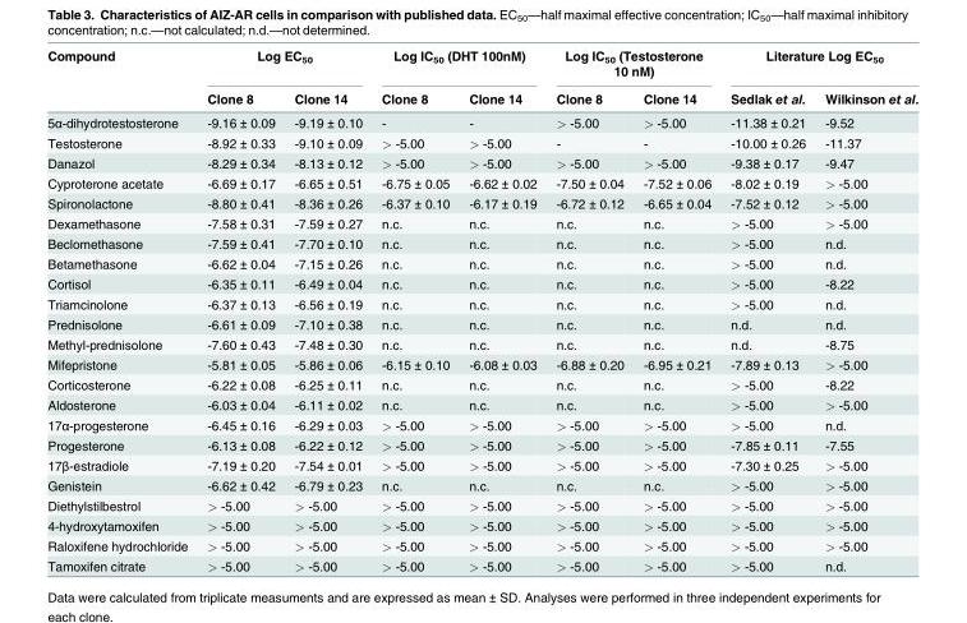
<table><thead><tr><td rowspan="2">Compound</td><td colspan="2">Log EC<sub>50</sub></td><td colspan="2">Log IC<sub>50</sub> (DHT 100nM)</td><td colspan="2">Log IC<sub>50</sub> (Testosterone 10 nM)</td><td colspan="2">Literature Log EC<sub>50</sub></td></tr><tr><td>Clone 8</td><td>Clone 14</td><td>Clone 8</td><td>Clone 14</td><td>Clone 8</td><td>Clone 14</td><td>Sedlak et al.</td><td>Wilkinson et al.</td></tr></thead><tbody><tr><td>5α-dihydrotestosterone</td><td>-9.16 ± 0.09</td><td>-9.19 ± 0.10</td><td>-</td><td>-</td><td>&gt; -5.00</td><td>&gt; -5.00</td><td>-11.38 ± 0.21</td><td>-9.52</td></tr><tr><td>Testosterone</td><td>-8.92 ± 0.33</td><td>-9.10 ± 0.09</td><td>&gt; -5.00</td><td>&gt; -5.00</td><td>-</td><td>-</td><td>-10.00 ± 0.26</td><td>-11.37</td></tr><tr><td>Danazol</td><td>-8.29 ± 0.34</td><td>-8.13 ± 0.12</td><td>&gt; -5.00</td><td>&gt; -5.00</td><td>&gt; -5.00</td><td>&gt; -5.00</td><td>-9.38 ± 0.17</td><td>-9.47</td></tr><tr><td>Cyproterone acetate</td><td>-6.69 ± 0.17</td><td>-6.65 ± 0.51</td><td>-6.75 ± 0.05</td><td>-6.62 ± 0.02</td><td>-7.50 ± 0.04</td><td>-7.52 ± 0.06</td><td>-8.02 ± 0.19</td><td>&gt; -5.00</td></tr><tr><td>Spironolactone</td><td>-8.80 ± 0.41</td><td>-8.36 ± 0.26</td><td>-6.37 ± 0.10</td><td>-6.17 ± 0.19</td><td>-6.72 ± 0.12</td><td>-6.65 ± 0.04</td><td>-7.52 ± 0.12</td><td>&gt; -5.00</td></tr><tr><td>Dexamethasone</td><td>-7.58 ± 0.31</td><td>-7.59 ± 0.27</td><td>n.c.</td><td>n.c.</td><td>n.c.</td><td>n.c.</td><td>&gt; -5.00</td><td>&gt; -5.00</td></tr><tr><td>Beclomethasone</td><td>-7.59 ± 0.41</td><td>-7.70 ± 0.10</td><td>n.c.</td><td>n.c.</td><td>n.c.</td><td>n.c.</td><td>&gt; -5.00</td><td>n.d.</td></tr><tr><td>Betamethasone</td><td>-6.62 ± 0.04</td><td>-7.15 ± 0.26</td><td>n.c.</td><td>n.c.</td><td>n.c.</td><td>n.c.</td><td>&gt; -5.00</td><td>n.d.</td></tr><tr><td>Cortisol</td><td>-6.35 ± 0.11</td><td>-6.49 ± 0.04</td><td>n.c.</td><td>n.c.</td><td>n.c.</td><td>n.c.</td><td>&gt; -5.00</td><td>-8.22</td></tr><tr><td>Triamcinolone</td><td>-6.37 ± 0.13</td><td>-6.56 ± 0.19</td><td>n.c.</td><td>n.c.</td><td>n.c.</td><td>n.c.</td><td>&gt; -5.00</td><td>n.d.</td></tr><tr><td>Prednisolone</td><td>-6.61 ± 0.09</td><td>-7.10 ± 0.38</td><td>n.c.</td><td>n.c.</td><td>n.c.</td><td>n.c.</td><td>n.d.</td><td>n.d.</td></tr><tr><td>Methyl-prednisolone</td><td>-7.60 ± 0.43</td><td>-7.48 ± 0.30</td><td>n.c.</td><td>n.c.</td><td>n.c.</td><td>n.c.</td><td>n.d.</td><td>-8.75</td></tr><tr><td>Mifepristone</td><td>-5.81 ± 0.05</td><td>-5.86 ± 0.06</td><td>-6.15 ± 0.10</td><td>-6.08 ± 0.03</td><td>-6.88 ± 0.20</td><td>-6.95 ± 0.21</td><td>-7.89 ± 0.13</td><td>&gt; -5.00</td></tr><tr><td>Corticosterone</td><td>-6.22 ± 0.08</td><td>-6.25 ± 0.11</td><td>n.c.</td><td>n.c.</td><td>n.c.</td><td>n.c.</td><td>&gt; -5.00</td><td>-8.22</td></tr><tr><td>Aldosterone</td><td>-6.03 ± 0.04</td><td>-6.11 ± 0.02</td><td>n.c.</td><td>n.c.</td><td>n.c.</td><td>n.c.</td><td>&gt; -5.00</td><td>&gt; -5.00</td></tr><tr><td>17α-progesterone</td><td>-6.45 ± 0.16</td><td>-6.29 ± 0.03</td><td>&gt; -5.00</td><td>&gt; -5.00</td><td>&gt; -5.00</td><td>&gt; -5.00</td><td>&gt; -5.00</td><td>n.d.</td></tr><tr><td>Progesterone</td><td>-6.13 ± 0.08</td><td>-6.22 ± 0.12</td><td>&gt; -5.00</td><td>&gt; -5.00</td><td>&gt; -5.00</td><td>&gt; -5.00</td><td>-7.85 ± 0.11</td><td>-7.55</td></tr><tr><td>17β-estradiole</td><td>-7.19 ± 0.20</td><td>-7.54 ± 0.01</td><td>&gt; -5.00</td><td>&gt; -5.00</td><td>&gt; -5.00</td><td>&gt; -5.00</td><td>-7.30 ± 0.25</td><td>&gt; -5.00</td></tr><tr><td>Genistein</td><td>-6.62 ± 0.42</td><td>-6.79 ± 0.23</td><td>n.c.</td><td>n.c.</td><td>n.c.</td><td>n.c.</td><td>&gt; -5.00</td><td>&gt; -5.00</td></tr><tr><td>Diethylstilbestrol</td><td>&gt; -5.00</td><td>&gt; -5.00</td><td>&gt; -5.00</td><td>&gt; -5.00</td><td>&gt; -5.00</td><td>&gt; -5.00</td><td>&gt; -5.00</td><td>&gt; -5.00</td></tr><tr><td>4-hydroxytamoxifen</td><td>&gt; -5.00</td><td>&gt; -5.00</td><td>&gt; -5.00</td><td>&gt; -5.00</td><td>&gt; -5.00</td><td>&gt; -5.00</td><td>&gt; -5.00</td><td>&gt; -5.00</td></tr><tr><td>Raloxifene hydrochloride</td><td>&gt; -5.00</td><td>&gt; -5.00</td><td>&gt; -5.00</td><td>&gt; -5.00</td><td>&gt; -5.00</td><td>&gt; -5.00</td><td>&gt; -5.00</td><td>&gt; -5.00</td></tr><tr><td>Tamoxifen citrate</td><td>&gt; -5.00</td><td>&gt; -5.00</td><td>&gt; -5.00</td><td>&gt; -5.00</td><td>&gt; -5.00</td><td>&gt; -5.00</td><td>&gt; -5.00</td><td>n.d.</td></tr></tbody></table>